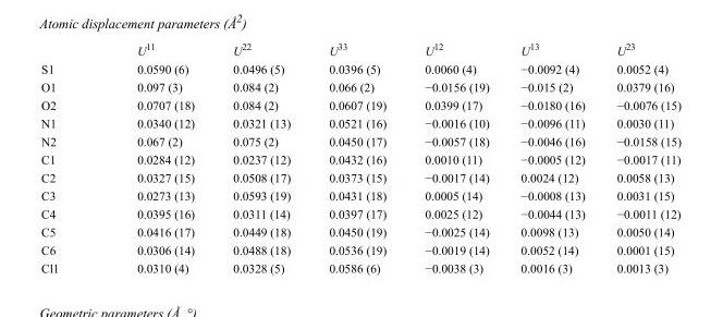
<table><thead><tr><td></td><td>U<sup>11</sup></td><td>U<sup>22</sup></td><td>U<sup>33</sup></td><td>U<sup>12</sup></td><td>U<sup>13</sup></td><td>U<sup>23</sup></td></tr></thead><tbody><tr><td>S1</td><td>0.0590 (6)</td><td>0.0496 (5)</td><td>0.0396 (5)</td><td>0.0060 (4)</td><td>−0.0092 (4)</td><td>0.0052 (4)</td></tr><tr><td>O1</td><td>0.097 (3)</td><td>0.084 (2)</td><td>0.066 (2)</td><td>−0.0156 (19)</td><td>−0.015 (2)</td><td>0.0379 (16)</td></tr><tr><td>O2</td><td>0.0707 (18)</td><td>0.084 (2)</td><td>0.0607 (19)</td><td>0.0399 (17)</td><td>−0.0180 (16)</td><td>−0.0076 (15)</td></tr><tr><td>N1</td><td>0.0340 (12)</td><td>0.0321 (13)</td><td>0.0521 (16)</td><td>−0.0016 (10)</td><td>−0.0096 (11)</td><td>0.0030 (11)</td></tr><tr><td>N2</td><td>0.067 (2)</td><td>0.075 (2)</td><td>0.0450 (17)</td><td>−0.0057 (18)</td><td>−0.0046 (16)</td><td>−0.0158 (15)</td></tr><tr><td>C1</td><td>0.0284 (12)</td><td>0.0237 (12)</td><td>0.0432 (16)</td><td>0.0010 (11)</td><td>−0.0005 (12)</td><td>−0.0017 (11)</td></tr><tr><td>C2</td><td>0.0327 (15)</td><td>0.0508 (17)</td><td>0.0373 (15)</td><td>−0.0017 (14)</td><td>0.0024 (12)</td><td>0.0058 (13)</td></tr><tr><td>C3</td><td>0.0273 (13)</td><td>0.0593 (19)</td><td>0.0431 (18)</td><td>0.0005 (14)</td><td>−0.0008 (13)</td><td>0.0031 (15)</td></tr><tr><td>C4</td><td>0.0395 (16)</td><td>0.0311 (14)</td><td>0.0397 (17)</td><td>0.0025 (12)</td><td>−0.0044 (13)</td><td>−0.0011 (12)</td></tr><tr><td>C5</td><td>0.0416 (17)</td><td>0.0449 (18)</td><td>0.0450 (19)</td><td>−0.0025 (14)</td><td>0.0098 (13)</td><td>0.0050 (14)</td></tr><tr><td>C6</td><td>0.0306 (14)</td><td>0.0488 (18)</td><td>0.0536 (19)</td><td>−0.0019 (14)</td><td>0.0052 (14)</td><td>0.0001 (15)</td></tr><tr><td>Cl1</td><td>0.0310 (4)</td><td>0.0328 (5)</td><td>0.0586 (6)</td><td>−0.0038 (3)</td><td>0.0016 (3)</td><td>0.0013 (3)</td></tr></tbody></table>